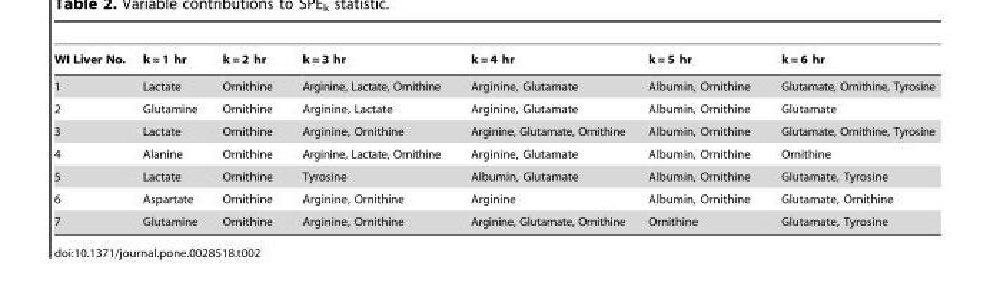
<table><thead><tr><td>WI Liver No.</td><td>k = 1 hr</td><td>k = 2 hr</td><td>k = 3 hr</td><td>k = 4 hr</td><td>k = 5 hr</td><td>k = 6 hr</td></tr></thead><tbody><tr><td>1</td><td>Lactate</td><td>Ornithine</td><td>Arginine, Lactate, Ornithine</td><td>Arginine, Glutamate</td><td>Albumin, Ornithine</td><td>Glutamate, Ornithine, Tyrosine</td></tr><tr><td>2</td><td>Glutamine</td><td>Ornithine</td><td>Arginine, Lactate</td><td>Arginine, Glutamate</td><td>Albumin, Ornithine</td><td>Glutamate</td></tr><tr><td>3</td><td>Lactate</td><td>Ornithine</td><td>Arginine, Ornithine</td><td>Arginine, Glutamate, Ornithine</td><td>Albumin, Ornithine</td><td>Glutamate, Ornithine, Tyrosine</td></tr><tr><td>4</td><td>Alanine</td><td>Ornithine</td><td>Arginine, Lactate, Ornithine</td><td>Arginine, Glutamate</td><td>Albumin, Ornithine</td><td>Ornithine</td></tr><tr><td>5</td><td>Lactate</td><td>Ornithine</td><td>Tyrosine</td><td>Albumin, Glutamate</td><td>Albumin, Ornithine</td><td>Glutamate, Tyrosine</td></tr><tr><td>6</td><td>Aspartate</td><td>Ornithine</td><td>Arginine, Ornithine</td><td>Arginine</td><td>Albumin, Ornithine</td><td>Glutamate, Ornithine</td></tr><tr><td>7</td><td>Glutamine</td><td>Ornithine</td><td>Arginine, Ornithine</td><td>Arginine, Glutamate, Ornithine</td><td>Ornithine</td><td>Glutamate, Tyrosine</td></tr></tbody></table>